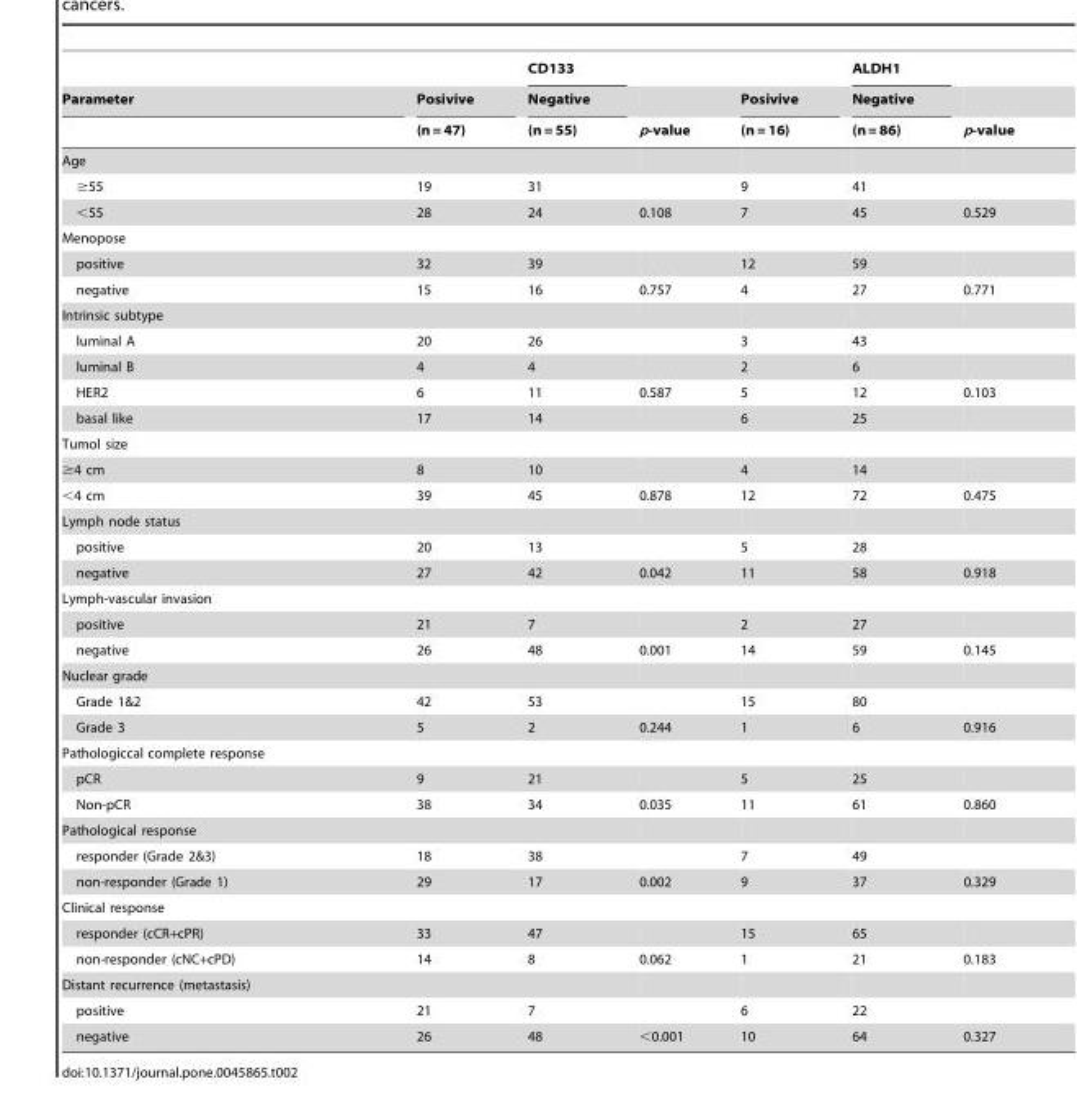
<table><thead><tr><td rowspan="3">Parameter</td><td rowspan="3">Posivive (n = 47)</td><td rowspan="3">CD133 Negative (n = 55)</td><td rowspan="3">p-value</td><td rowspan="3">Posivive (n = 16)</td><td rowspan="3">ALDH1 Negative (n = 86)</td><td rowspan="3">p-value</td></tr><tr></tr><tr></tr></thead><tbody><tr><td colspan="7">Age</td></tr><tr><td>≥55</td><td>19</td><td>31</td><td></td><td>9</td><td>41</td><td></td></tr><tr><td>&lt;55</td><td>28</td><td>24</td><td>0.108</td><td>7</td><td>45</td><td>0.529</td></tr><tr><td colspan="7">Menopose</td></tr><tr><td>positive</td><td>32</td><td>39</td><td></td><td>12</td><td>59</td><td></td></tr><tr><td>negative</td><td>15</td><td>16</td><td>0.757</td><td>4</td><td>27</td><td>0.771</td></tr><tr><td colspan="7">Intrinsic subtype</td></tr><tr><td>luminal A</td><td>20</td><td>26</td><td></td><td>3</td><td>43</td><td></td></tr><tr><td>luminal B</td><td>4</td><td>4</td><td></td><td>2</td><td>6</td><td></td></tr><tr><td>HER2</td><td>6</td><td>11</td><td>0.587</td><td>5</td><td>12</td><td>0.103</td></tr><tr><td>basal like</td><td>17</td><td>14</td><td></td><td>6</td><td>25</td><td></td></tr><tr><td colspan="7">Tumol size</td></tr><tr><td>≥4 cm</td><td>8</td><td>10</td><td></td><td>4</td><td>14</td><td></td></tr><tr><td>&lt;4 cm</td><td>39</td><td>45</td><td>0.878</td><td>12</td><td>72</td><td>0.475</td></tr><tr><td colspan="7">Lymph node status</td></tr><tr><td>positive</td><td>20</td><td>13</td><td></td><td>5</td><td>28</td><td></td></tr><tr><td>negative</td><td>27</td><td>42</td><td>0.042</td><td>11</td><td>58</td><td>0.918</td></tr><tr><td colspan="7">Lymph-vascular invasion</td></tr><tr><td>positive</td><td>21</td><td>7</td><td></td><td>2</td><td>27</td><td></td></tr><tr><td>negative</td><td>26</td><td>48</td><td>0.001</td><td>14</td><td>59</td><td>0.145</td></tr><tr><td colspan="7">Nuclear grade</td></tr><tr><td>Grade 1&amp;2</td><td>42</td><td>53</td><td></td><td>15</td><td>80</td><td></td></tr><tr><td>Grade 3</td><td>5</td><td>2</td><td>0.244</td><td>1</td><td>6</td><td>0.916</td></tr><tr><td colspan="7">Pathologiccal complete response</td></tr><tr><td>pCR</td><td>9</td><td>21</td><td></td><td>5</td><td>25</td><td></td></tr><tr><td>Non-pCR</td><td>38</td><td>34</td><td>0.035</td><td>11</td><td>61</td><td>0.860</td></tr><tr><td colspan="7">Pathological response</td></tr><tr><td>responder (Grade 2&amp;3)</td><td>18</td><td>38</td><td></td><td>7</td><td>49</td><td></td></tr><tr><td>non-responder (Grade 1)</td><td>29</td><td>17</td><td>0.002</td><td>9</td><td>37</td><td>0.329</td></tr><tr><td colspan="7">Clinical response</td></tr><tr><td>responder (cCR+cPR)</td><td>33</td><td>47</td><td></td><td>15</td><td>65</td><td></td></tr><tr><td>non-responder (cNC+cPD)</td><td>14</td><td>8</td><td>0.062</td><td>1</td><td>21</td><td>0.183</td></tr><tr><td colspan="7">Distant recurrence (metastasis)</td></tr><tr><td>positive</td><td>21</td><td>7</td><td></td><td>6</td><td>22</td><td></td></tr><tr><td>negative</td><td>26</td><td>48</td><td>&lt;0.001</td><td>10</td><td>64</td><td>0.327</td></tr></tbody></table>